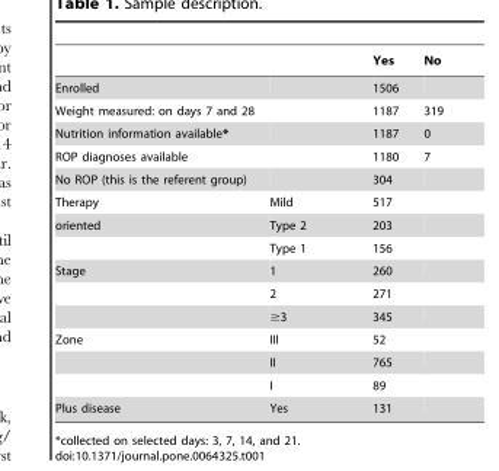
<table><thead><tr><td></td><td></td><td>Yes</td><td>No</td></tr></thead><tbody><tr><td>Enrolled</td><td></td><td>1506</td><td></td></tr><tr><td>Weight measured: on days 7 and 28</td><td></td><td>1187</td><td>319</td></tr><tr><td>Nutrition information available*</td><td></td><td>1187</td><td>0</td></tr><tr><td>ROP diagnoses available</td><td></td><td>1180</td><td>7</td></tr><tr><td>No ROP (this is the referent group)</td><td></td><td>304</td><td></td></tr><tr><td>Therapy</td><td>Mild</td><td>517</td><td></td></tr><tr><td rowspan="2">oriented</td><td>Type 2</td><td>203</td><td></td></tr><tr><td>Type 1</td><td>156</td><td></td></tr><tr><td rowspan="3">Stage</td><td>1</td><td>260</td><td></td></tr><tr><td>2</td><td>271</td><td></td></tr><tr><td>≥3</td><td>345</td><td></td></tr><tr><td rowspan="3">Zone</td><td>III</td><td>52</td><td></td></tr><tr><td>II</td><td>765</td><td></td></tr><tr><td>I</td><td>89</td><td></td></tr><tr><td>Plus disease</td><td>Yes</td><td>131</td><td></td></tr></tbody></table>